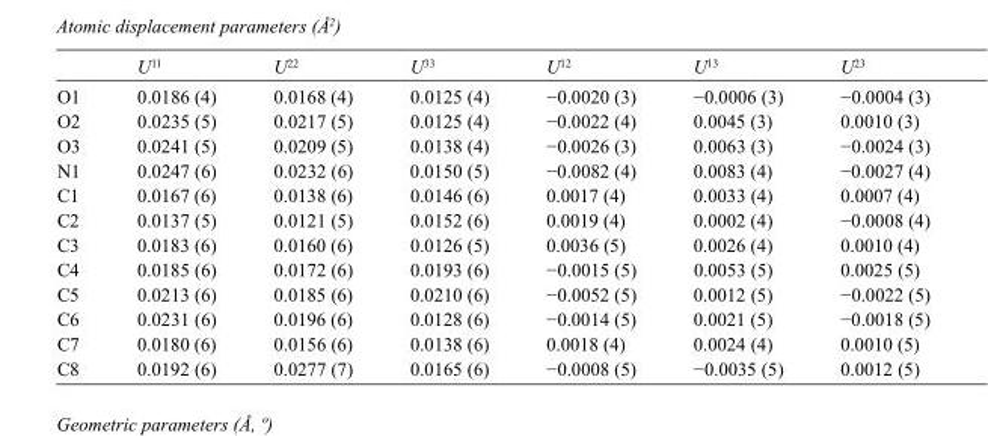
<table><thead><tr><td></td><td>U<sup>11</sup></td><td>U<sup>22</sup></td><td>U<sup>33</sup></td><td>U<sup>12</sup></td><td>U<sup>13</sup></td><td>U<sup>23</sup></td></tr></thead><tbody><tr><td>O1</td><td>0.0186 (4)</td><td>0.0168 (4)</td><td>0.0125 (4)</td><td>−0.0020 (3)</td><td>−0.0006 (3)</td><td>−0.0004 (3)</td></tr><tr><td>O2</td><td>0.0235 (5)</td><td>0.0217 (5)</td><td>0.0125 (4)</td><td>−0.0022 (4)</td><td>0.0045 (3)</td><td>0.0010 (3)</td></tr><tr><td>O3</td><td>0.0241 (5)</td><td>0.0209 (5)</td><td>0.0138 (4)</td><td>−0.0026 (3)</td><td>0.0063 (3)</td><td>−0.0024 (3)</td></tr><tr><td>N1</td><td>0.0247 (6)</td><td>0.0232 (6)</td><td>0.0150 (5)</td><td>−0.0082 (4)</td><td>0.0083 (4)</td><td>−0.0027 (4)</td></tr><tr><td>C1</td><td>0.0167 (6)</td><td>0.0138 (6)</td><td>0.0146 (6)</td><td>0.0017 (4)</td><td>0.0033 (4)</td><td>0.0007 (4)</td></tr><tr><td>C2</td><td>0.0137 (5)</td><td>0.0121 (5)</td><td>0.0152 (6)</td><td>0.0019 (4)</td><td>0.0002 (4)</td><td>−0.0008 (4)</td></tr><tr><td>C3</td><td>0.0183 (6)</td><td>0.0160 (6)</td><td>0.0126 (5)</td><td>0.0036 (5)</td><td>0.0026 (4)</td><td>0.0010 (4)</td></tr><tr><td>C4</td><td>0.0185 (6)</td><td>0.0172 (6)</td><td>0.0193 (6)</td><td>−0.0015 (5)</td><td>0.0053 (5)</td><td>0.0025 (5)</td></tr><tr><td>C5</td><td>0.0213 (6)</td><td>0.0185 (6)</td><td>0.0210 (6)</td><td>−0.0052 (5)</td><td>0.0012 (5)</td><td>−0.0022 (5)</td></tr><tr><td>C6</td><td>0.0231 (6)</td><td>0.0196 (6)</td><td>0.0128 (6)</td><td>−0.0014 (5)</td><td>0.0021 (5)</td><td>−0.0018 (5)</td></tr><tr><td>C7</td><td>0.0180 (6)</td><td>0.0156 (6)</td><td>0.0138 (6)</td><td>0.0018 (4)</td><td>0.0024 (4)</td><td>0.0010 (5)</td></tr><tr><td>C8</td><td>0.0192 (6)</td><td>0.0277 (7)</td><td>0.0165 (6)</td><td>−0.0008 (5)</td><td>−0.0035 (5)</td><td>0.0012 (5)</td></tr></tbody></table>